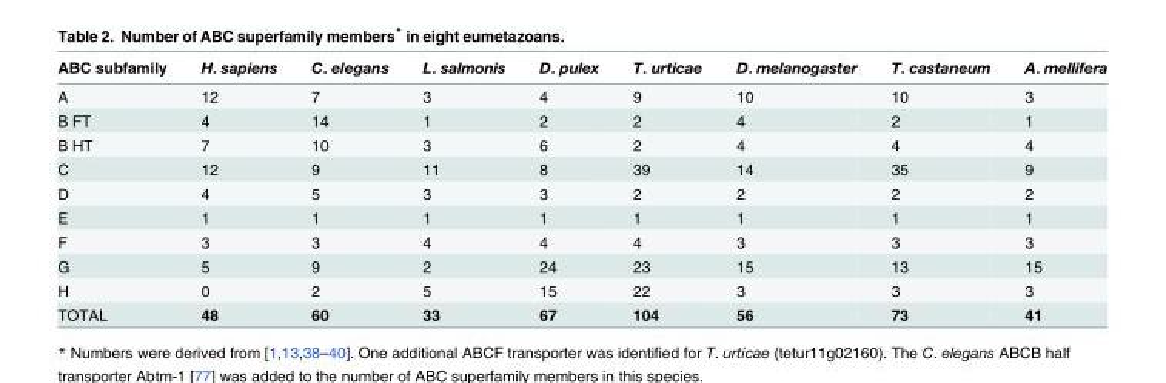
<table><thead><tr><td>ABC subfamily</td><td>H. sapiens</td><td>C. elegans</td><td>L. salmonis</td><td>D. pulex</td><td>T. urticae</td><td>D. melanogaster</td><td>T. castaneum</td><td>A. mellifera</td></tr></thead><tbody><tr><td>A</td><td>12</td><td>7</td><td>3</td><td>4</td><td>9</td><td>10</td><td>10</td><td>3</td></tr><tr><td>B FT</td><td>4</td><td>14</td><td>1</td><td>2</td><td>2</td><td>4</td><td>2</td><td>1</td></tr><tr><td>B HT</td><td>7</td><td>10</td><td>3</td><td>6</td><td>2</td><td>4</td><td>4</td><td>4</td></tr><tr><td>C</td><td>12</td><td>9</td><td>11</td><td>8</td><td>39</td><td>14</td><td>35</td><td>9</td></tr><tr><td>D</td><td>4</td><td>5</td><td>3</td><td>3</td><td>2</td><td>2</td><td>2</td><td>2</td></tr><tr><td>E</td><td>1</td><td>1</td><td>1</td><td>1</td><td>1</td><td>1</td><td>1</td><td>1</td></tr><tr><td>F</td><td>3</td><td>3</td><td>4</td><td>4</td><td>4</td><td>3</td><td>3</td><td>3</td></tr><tr><td>G</td><td>5</td><td>9</td><td>2</td><td>24</td><td>23</td><td>15</td><td>13</td><td>15</td></tr><tr><td>H</td><td>0</td><td>2</td><td>5</td><td>15</td><td>22</td><td>3</td><td>3</td><td>3</td></tr><tr><td>TOTAL</td><td>48</td><td>60</td><td>33</td><td>67</td><td>104</td><td>56</td><td>73</td><td>41</td></tr></tbody></table>